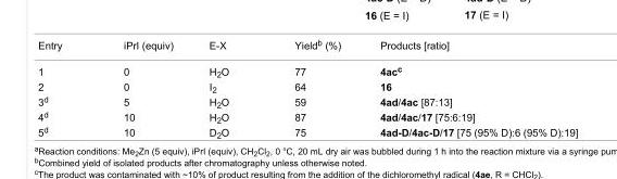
<table><tbody><tr><td>Entry</td><td>iPrI (equiv)</td><td>E-X</td><td>Yield<sup>b</sup> (%)</td><td>Products [ratio]</td></tr><tr><td>1</td><td>0</td><td>H<sub>2</sub>O</td><td>77</td><td>4ac<sup>c</sup></td></tr><tr><td>2</td><td>0</td><td>I<sub>2</sub></td><td>64</td><td>16</td></tr><tr><td>3<sup>d</sup></td><td>5</td><td>H<sub>2</sub>O</td><td>59</td><td>4ad/4ac [87:13]</td></tr><tr><td>4<sup>d</sup></td><td>10</td><td>H<sub>2</sub>O</td><td>87</td><td>4ad/4ac/17 [75:6:19]</td></tr><tr><td>5<sup>d</sup></td><td>10</td><td>D<sub>2</sub>O</td><td>75</td><td>4ad-D/4ac-D/17 [75 (95% D):6 (95% D):19]</td></tr></tbody></table>